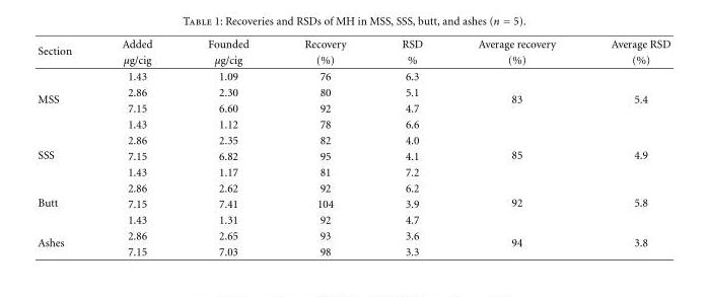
<table><thead><tr><td rowspan="2">Section</td><td rowspan="2">Added µg/cig</td><td rowspan="2">Founded µg/cig</td><td rowspan="2">Recovery (%)</td><td rowspan="2">RSD %</td><td rowspan="2">Average recovery (%)</td><td rowspan="2">Average RSD (%)</td></tr><tr></tr></thead><tbody><tr><td rowspan="4">MSS</td><td>1.43</td><td>1.09</td><td>76</td><td>6.3</td><td rowspan="4">83</td><td rowspan="4">5.4</td></tr><tr><td>2.86</td><td>2.30</td><td>80</td><td>5.1</td></tr><tr><td>7.15</td><td>6.60</td><td>92</td><td>4.7</td></tr><tr><td>1.43</td><td>1.12</td><td>78</td><td>6.6</td></tr><tr><td rowspan="3">SSS</td><td>2.86</td><td>2.35</td><td>82</td><td>4.0</td><td rowspan="3">85</td><td rowspan="3">4.9</td></tr><tr><td>7.15</td><td>6.82</td><td>95</td><td>4.1</td></tr><tr><td>1.43</td><td>1.17</td><td>81</td><td>7.2</td></tr><tr><td rowspan="3">Butt</td><td>2.86</td><td>2.62</td><td>92</td><td>6.2</td><td rowspan="3">92</td><td rowspan="3">5.8</td></tr><tr><td>7.15</td><td>7.41</td><td>104</td><td>3.9</td></tr><tr><td>1.43</td><td>1.31</td><td>92</td><td>4.7</td></tr><tr><td rowspan="2">Ashes</td><td>2.86</td><td>2.65</td><td>93</td><td>3.6</td><td rowspan="2">94</td><td rowspan="2">3.8</td></tr><tr><td>7.15</td><td>7.03</td><td>98</td><td>3.3</td></tr></tbody></table>